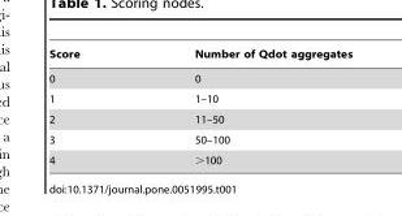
<table><thead><tr><td>Score</td><td>Number of Qdot aggregates</td></tr></thead><tbody><tr><td>0</td><td>0</td></tr><tr><td>1</td><td>1–10</td></tr><tr><td>2</td><td>11–50</td></tr><tr><td>3</td><td>50–100</td></tr><tr><td>4</td><td>&gt;100</td></tr></tbody></table>